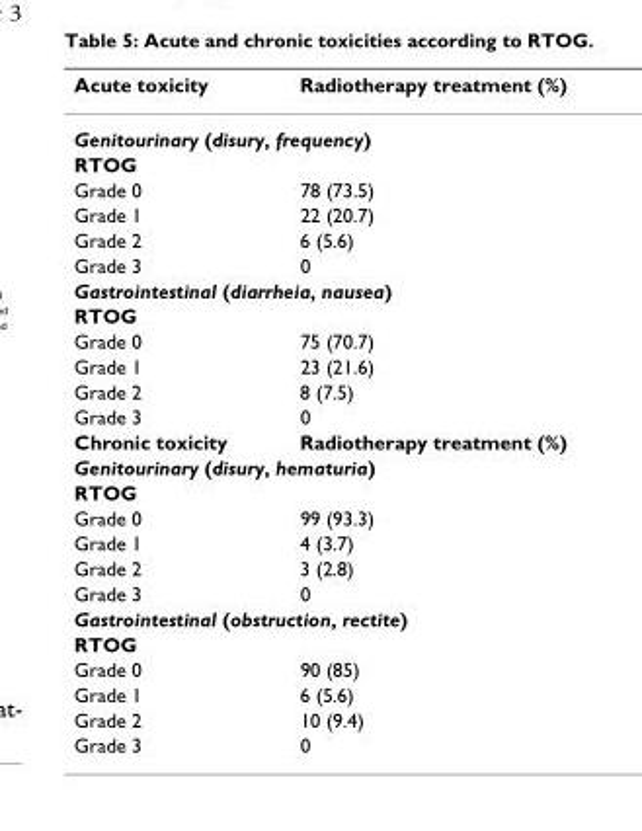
<table><thead><tr><td>Acute toxicity</td><td>Radiotherapy treatment (%)</td></tr></thead><tbody><tr><td colspan="2">Genitourinary (disury, frequency)</td></tr><tr><td colspan="2">RTOG</td></tr><tr><td>Grade 0</td><td>78 (73.5)</td></tr><tr><td>Grade 1</td><td>22 (20.7)</td></tr><tr><td>Grade 2</td><td>6 (5.6)</td></tr><tr><td>Grade 3</td><td>0</td></tr><tr><td colspan="2">Gastrointestinal (diarrheia, nausea)</td></tr><tr><td colspan="2">RTOG</td></tr><tr><td>Grade 0</td><td>75 (70.7)</td></tr><tr><td>Grade 1</td><td>23 (21.6)</td></tr><tr><td>Grade 2</td><td>8 (7.5)</td></tr><tr><td>Grade 3</td><td>0</td></tr><tr><td>Chronic toxicity</td><td>Radiotherapy treatment (%)</td></tr><tr><td colspan="2">Genitourinary (disury, hematuria)</td></tr><tr><td colspan="2">RTOG</td></tr><tr><td>Grade 0</td><td>99 (93.3)</td></tr><tr><td>Grade 1</td><td>4 (3.7)</td></tr><tr><td>Grade 2</td><td>3 (2.8)</td></tr><tr><td>Grade 3</td><td>0</td></tr><tr><td colspan="2">Gastrointestinal (obstruction, rectite)</td></tr><tr><td colspan="2">RTOG</td></tr><tr><td>Grade 0</td><td>90 (85)</td></tr><tr><td>Grade 1</td><td>6 (5.6)</td></tr><tr><td>Grade 2</td><td>10 (9.4)</td></tr><tr><td>Grade 3</td><td>0</td></tr></tbody></table>